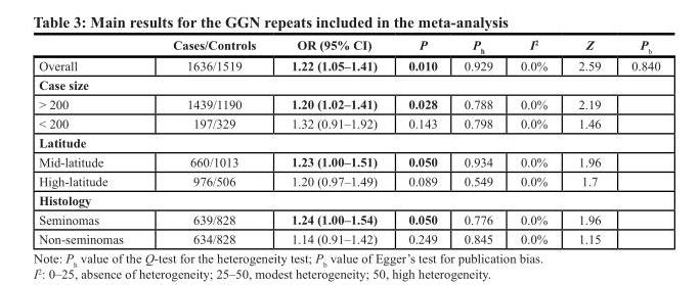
<table><thead><tr><td></td><td>Cases/Controls</td><td>OR (95% CI)</td><td>P</td><td>P<sub>h</sub></td><td>I<sup>2</sup></td><td>Z</td><td>P<sub>b</sub></td></tr></thead><tbody><tr><td>Overall</td><td>1636/1519</td><td>1.22 (1.05–1.41)</td><td>0.010</td><td>0.929</td><td>0.0%</td><td>2.59</td><td>0.840</td></tr><tr><td colspan="8">Case size</td></tr><tr><td>&gt; 200</td><td>1439/1190</td><td>1.20 (1.02–1.41)</td><td>0.028</td><td>0.788</td><td>0.0%</td><td>2.19</td><td></td></tr><tr><td>&lt; 200</td><td>197/329</td><td>1.32 (0.91–1.92)</td><td>0.143</td><td>0.798</td><td>0.0%</td><td>1.46</td><td></td></tr><tr><td colspan="8">Latitude</td></tr><tr><td>Mid-latitude</td><td>660/1013</td><td>1.23 (1.00–1.51)</td><td>0.050</td><td>0.934</td><td>0.0%</td><td>1.96</td><td></td></tr><tr><td>High-latitude</td><td>976/506</td><td>1.20 (0.97–1.49)</td><td>0.089</td><td>0.549</td><td>0.0%</td><td>1.7</td><td></td></tr><tr><td colspan="8">Histology</td></tr><tr><td>Seminomas</td><td>639/828</td><td>1.24 (1.00–1.54)</td><td>0.050</td><td>0.776</td><td>0.0%</td><td>1.96</td><td></td></tr><tr><td>Non-seminomas</td><td>634/828</td><td>1.14 (0.91–1.42)</td><td>0.249</td><td>0.845</td><td>0.0%</td><td>1.15</td><td></td></tr></tbody></table>